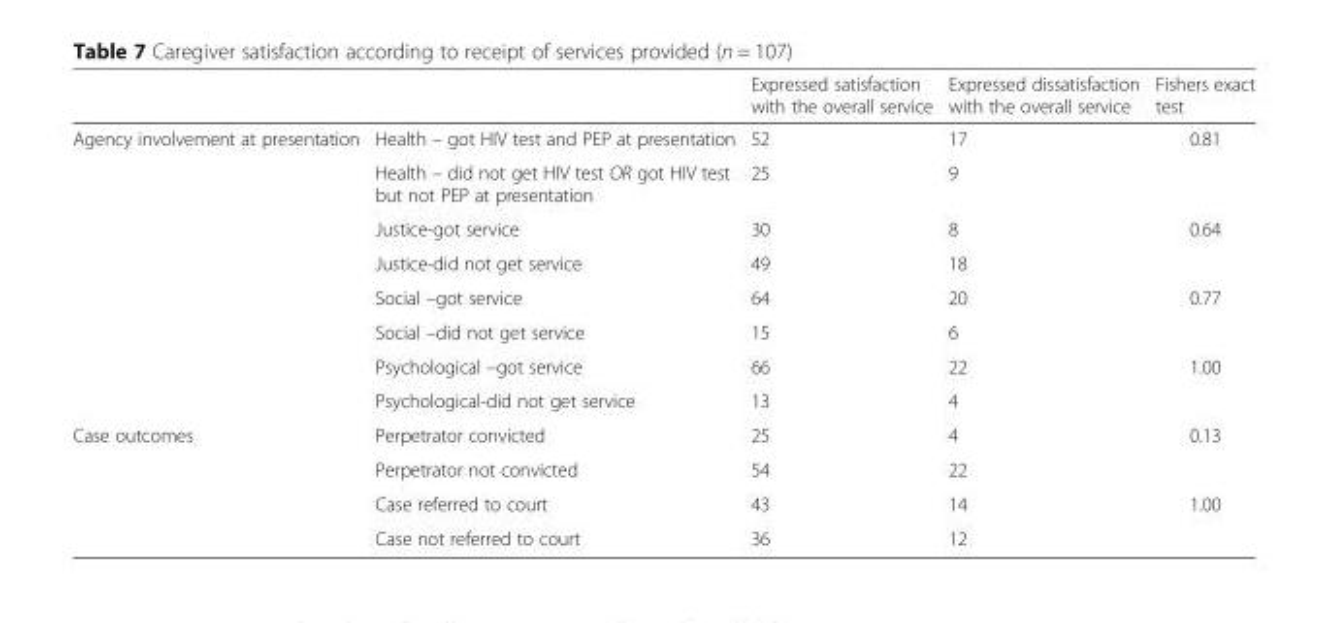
<table><thead><tr><td></td><td></td><td>Expressed satisfaction with the overall service</td><td>Expressed dissatisfaction with the overall service</td><td>Fishers exact test</td></tr></thead><tbody><tr><td rowspan="8">Agency involvement at presentation</td><td>Health – got HIV test and PEP at presentation</td><td>52</td><td>17</td><td rowspan="2">0.81</td></tr><tr><td>Health – did not get HIV test OR got HIV test but not PEP at presentation</td><td>25</td><td>9</td></tr><tr><td>Justice-got service</td><td>30</td><td>8</td><td rowspan="2">0.64</td></tr><tr><td>Justice-did not get service</td><td>49</td><td>18</td></tr><tr><td>Social –got service</td><td>64</td><td>20</td><td rowspan="2">0.77</td></tr><tr><td>Social –did not get service</td><td>15</td><td>6</td></tr><tr><td>Psychological –got service</td><td>66</td><td>22</td><td rowspan="2">1.00</td></tr><tr><td>Psychological-did not get service</td><td>13</td><td>4</td></tr><tr><td rowspan="4">Case outcomes</td><td>Perpetrator convicted</td><td>25</td><td>4</td><td rowspan="2">0.13</td></tr><tr><td>Perpetrator not convicted</td><td>54</td><td>22</td></tr><tr><td>Case referred to court</td><td>43</td><td>14</td><td rowspan="2">1.00</td></tr><tr><td>Case not referred to court</td><td>36</td><td>12</td></tr></tbody></table>